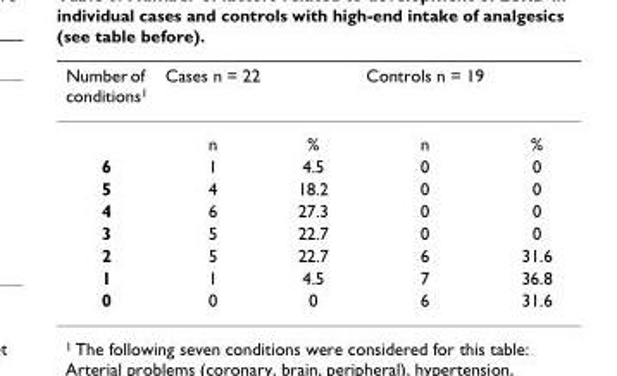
<table><thead><tr><td>Number of conditions<sup>1</sup></td><td>Cases n = 22</td><td></td><td>Controls n = 19</td><td></td></tr></thead><tbody><tr><td></td><td>n</td><td>%</td><td>n</td><td>%</td></tr><tr><td>6</td><td>1</td><td>4.5</td><td>0</td><td>0</td></tr><tr><td>5</td><td>4</td><td>18.2</td><td>0</td><td>0</td></tr><tr><td>4</td><td>6</td><td>27.3</td><td>0</td><td>0</td></tr><tr><td>3</td><td>5</td><td>22.7</td><td>0</td><td>0</td></tr><tr><td>2</td><td>5</td><td>22.7</td><td>6</td><td>31.6</td></tr><tr><td>1</td><td>1</td><td>4.5</td><td>7</td><td>36.8</td></tr><tr><td>0</td><td>0</td><td>0</td><td>6</td><td>31.6</td></tr></tbody></table>